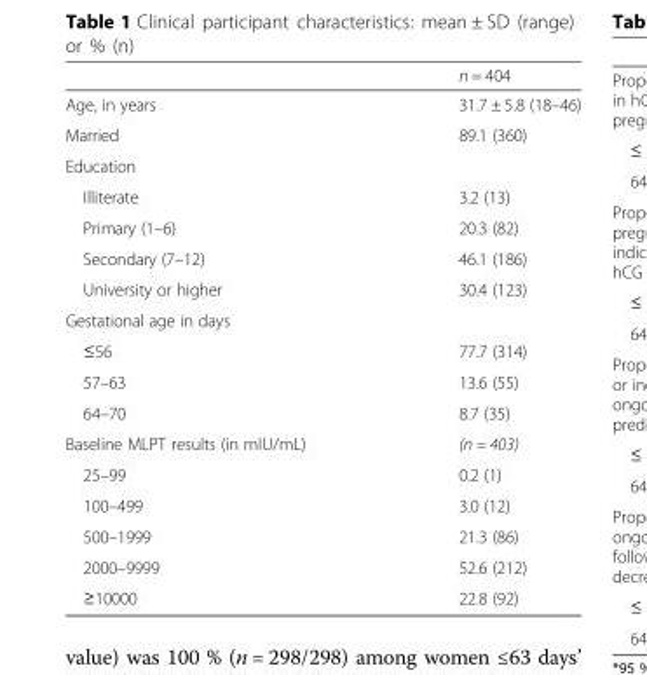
<table><thead><tr><td></td><td>n = 404</td></tr></thead><tbody><tr><td>Age, in years</td><td>31.7 ± 5.8 (18–46)</td></tr><tr><td>Married</td><td>89.1 (360)</td></tr><tr><td colspan="2">Education</td></tr><tr><td>Illiterate</td><td>3.2 (13)</td></tr><tr><td>Primary (1–6)</td><td>20.3 (82)</td></tr><tr><td>Secondary (7–12)</td><td>46.1 (186)</td></tr><tr><td>University or higher</td><td>30.4 (123)</td></tr><tr><td colspan="2">Gestational age in days</td></tr><tr><td>≤56</td><td>77.7 (314)</td></tr><tr><td>57–63</td><td>13.6 (55)</td></tr><tr><td>64–70</td><td>8.7 (35)</td></tr><tr><td>Baseline MLPT results (in mIU/mL)</td><td>(n = 403)</td></tr><tr><td>25–99</td><td>0.2 (1)</td></tr><tr><td>100–499</td><td>3.0 (12)</td></tr><tr><td>500–1999</td><td>21.3 (86)</td></tr><tr><td>2000–9999</td><td>52.6 (212)</td></tr><tr><td>≥10000</td><td>22.8 (92)</td></tr></tbody></table>